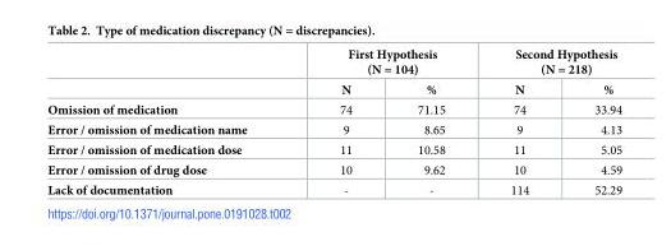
<table><thead><tr><td rowspan="2"></td><td colspan="2">First Hypothesis (N = 104)</td><td colspan="2">Second Hypothesis (N = 218)</td></tr><tr><td>N</td><td>%</td><td>N</td><td>%</td></tr></thead><tbody><tr><td>Omission of medication</td><td>74</td><td>71.15</td><td>74</td><td>33.94</td></tr><tr><td>Error / omission of medication name</td><td>9</td><td>8.65</td><td>9</td><td>4.13</td></tr><tr><td>Error / omission of medication dose</td><td>11</td><td>10.58</td><td>11</td><td>5.05</td></tr><tr><td>Error / omission of drug dose</td><td>10</td><td>9.62</td><td>10</td><td>4.59</td></tr><tr><td>Lack of documentation</td><td>-</td><td>-</td><td>114</td><td>52.29</td></tr></tbody></table>